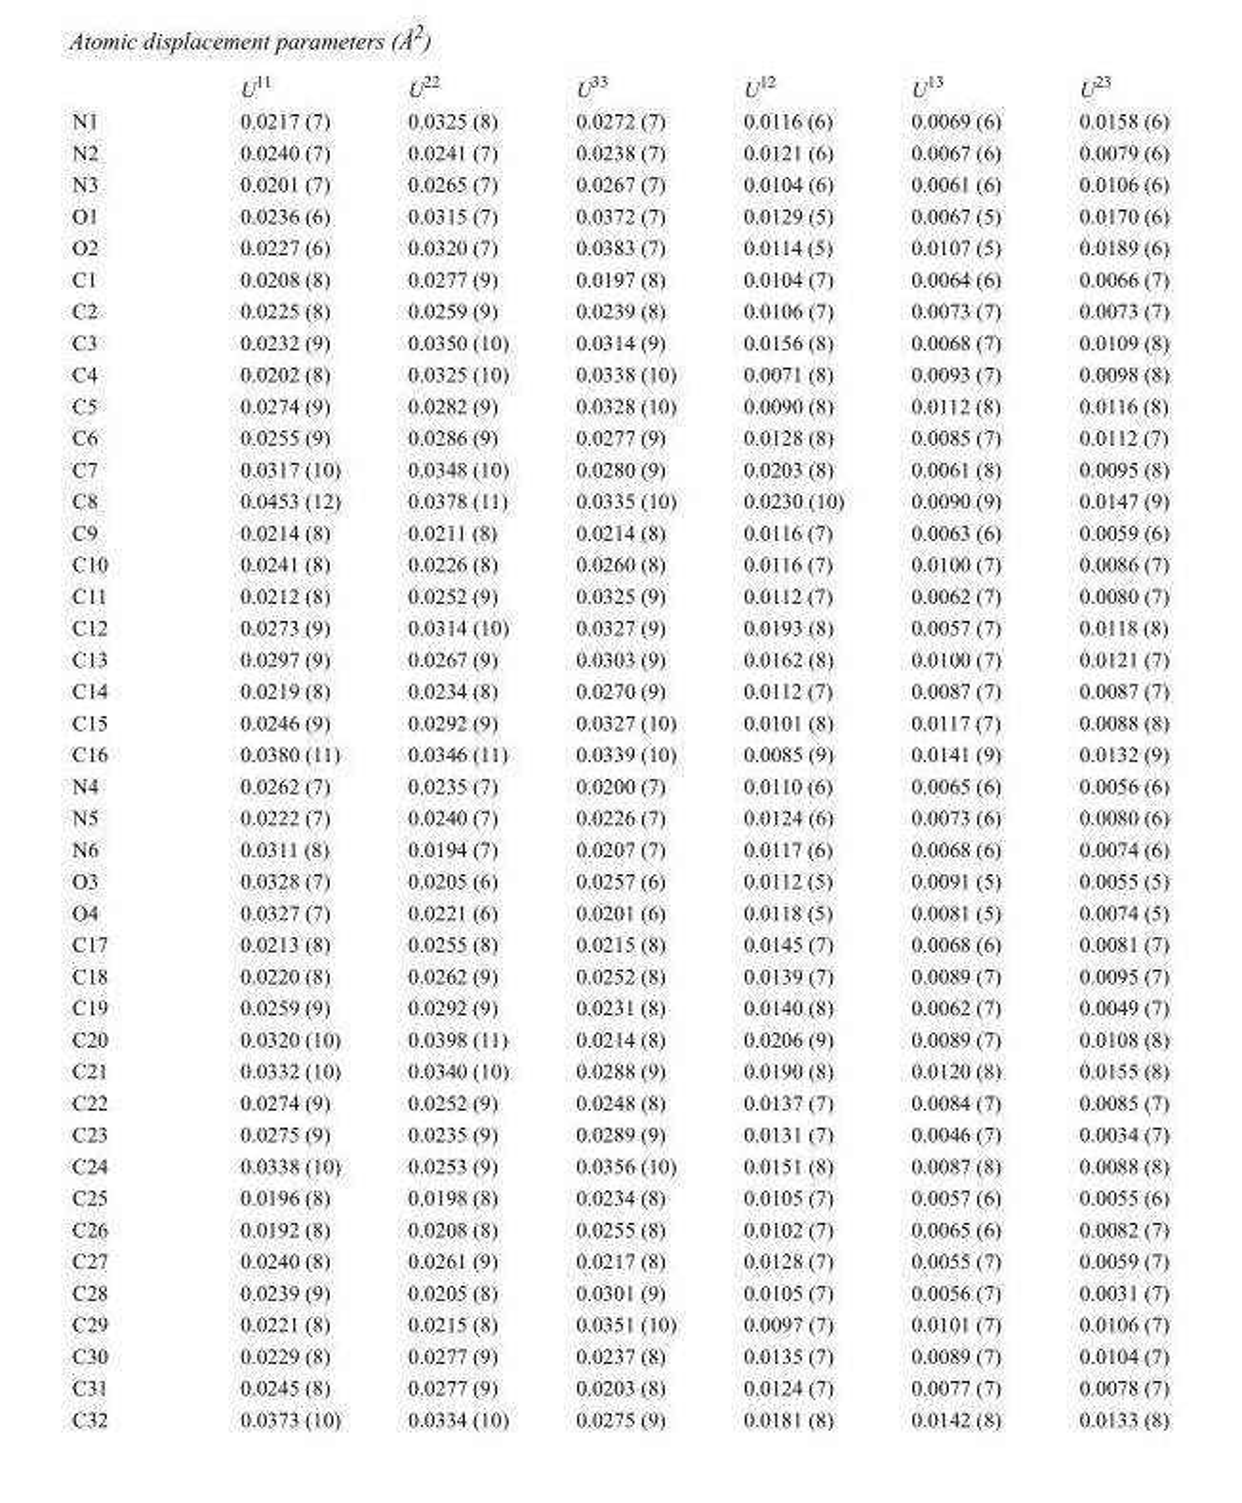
<table><thead><tr><td></td><td>U<sup>11</sup></td><td>U<sup>22</sup></td><td>U<sup>33</sup></td><td>U<sup>12</sup></td><td>U<sup>13</sup></td><td>U<sup>23</sup></td></tr></thead><tbody><tr><td>N1</td><td>0.0217 (7)</td><td>0.0325 (8)</td><td>0.0272 (7)</td><td>0.0116 (6)</td><td>0.0069 (6)</td><td>0.0158 (6)</td></tr><tr><td>N2</td><td>0.0240 (7)</td><td>0.0241 (7)</td><td>0.0238 (7)</td><td>0.0121 (6)</td><td>0.0067 (6)</td><td>0.0079 (6)</td></tr><tr><td>N3</td><td>0.0201 (7)</td><td>0.0265 (7)</td><td>0.0267 (7)</td><td>0.0104 (6)</td><td>0.0061 (6)</td><td>0.0106 (6)</td></tr><tr><td>O1</td><td>0.0236 (6)</td><td>0.0315 (7)</td><td>0.0372 (7)</td><td>0.0129 (5)</td><td>0.0067 (5)</td><td>0.0170 (6)</td></tr><tr><td>O2</td><td>0.0227 (6)</td><td>0.0320 (7)</td><td>0.0383 (7)</td><td>0.0114 (5)</td><td>0.0107 (5)</td><td>0.0189 (6)</td></tr><tr><td>C1</td><td>0.0208 (8)</td><td>0.0277 (9)</td><td>0.0197 (8)</td><td>0.0104 (7)</td><td>0.0064 (6)</td><td>0.0066 (7)</td></tr><tr><td>C2</td><td>0.0225 (8)</td><td>0.0259 (9)</td><td>0.0239 (8)</td><td>0.0106 (7)</td><td>0.0073 (7)</td><td>0.0073 (7)</td></tr><tr><td>C3</td><td>0.0232 (9)</td><td>0.0350 (10)</td><td>0.0314 (9)</td><td>0.0156 (8)</td><td>0.0068 (7)</td><td>0.0109 (8)</td></tr><tr><td>C4</td><td>0.0202 (8)</td><td>0.0325 (10)</td><td>0.0338 (10)</td><td>0.0071 (8)</td><td>0.0093 (7)</td><td>0.0098 (8)</td></tr><tr><td>C5</td><td>0.0274 (9)</td><td>0.0282 (9)</td><td>0.0328 (10)</td><td>0.0090 (8)</td><td>0.0112 (8)</td><td>0.0116 (8)</td></tr><tr><td>C6</td><td>0.0255 (9)</td><td>0.0286 (9)</td><td>0.0277 (9)</td><td>0.0128 (8)</td><td>0.0085 (7)</td><td>0.0112 (7)</td></tr><tr><td>C7</td><td>0.0317 (10)</td><td>0.0348 (10)</td><td>0.0280 (9)</td><td>0.0203 (8)</td><td>0.0061 (8)</td><td>0.0095 (8)</td></tr><tr><td>C8</td><td>0.0453 (12)</td><td>0.0378 (11)</td><td>0.0335 (10)</td><td>0.0230 (10)</td><td>0.0090 (9)</td><td>0.0147 (9)</td></tr><tr><td>C9</td><td>0.0214 (8)</td><td>0.0211 (8)</td><td>0.0214 (8)</td><td>0.0116 (7)</td><td>0.0063 (6)</td><td>0.0059 (6)</td></tr><tr><td>C10</td><td>0.0241 (8)</td><td>0.0226 (8)</td><td>0.0260 (8)</td><td>0.0116 (7)</td><td>0.0100 (7)</td><td>0.0086 (7)</td></tr><tr><td>C11</td><td>0.0212 (8)</td><td>0.0252 (9)</td><td>0.0325 (9)</td><td>0.0112 (7)</td><td>0.0062 (7)</td><td>0.0080 (7)</td></tr><tr><td>C12</td><td>0.0273 (9)</td><td>0.0314 (10)</td><td>0.0327 (9)</td><td>0.0193 (8)</td><td>0.0057 (7)</td><td>0.0118 (8)</td></tr><tr><td>C13</td><td>0.0297 (9)</td><td>0.0267 (9)</td><td>0.0303 (9)</td><td>0.0162 (8)</td><td>0.0100 (7)</td><td>0.0121 (7)</td></tr><tr><td>C14</td><td>0.0219 (8)</td><td>0.0234 (8)</td><td>0.0270 (9)</td><td>0.0112 (7)</td><td>0.0087 (7)</td><td>0.0087 (7)</td></tr><tr><td>C15</td><td>0.0246 (9)</td><td>0.0292 (9)</td><td>0.0327 (10)</td><td>0.0101 (8)</td><td>0.0117 (7)</td><td>0.0088 (8)</td></tr><tr><td>C16</td><td>0.0380 (11)</td><td>0.0346 (11)</td><td>0.0339 (10)</td><td>0.0085 (9)</td><td>0.0141 (9)</td><td>0.0132 (9)</td></tr><tr><td>N4</td><td>0.0262 (7)</td><td>0.0235 (7)</td><td>0.0200 (7)</td><td>0.0110 (6)</td><td>0.0065 (6)</td><td>0.0056 (6)</td></tr><tr><td>N5</td><td>0.0222 (7)</td><td>0.0240 (7)</td><td>0.0226 (7)</td><td>0.0124 (6)</td><td>0.0073 (6)</td><td>0.0080 (6)</td></tr><tr><td>N6</td><td>0.0311 (8)</td><td>0.0194 (7)</td><td>0.0207 (7)</td><td>0.0117 (6)</td><td>0.0068 (6)</td><td>0.0074 (6)</td></tr><tr><td>O3</td><td>0.0328 (7)</td><td>0.0205 (6)</td><td>0.0257 (6)</td><td>0.0112 (5)</td><td>0.0091 (5)</td><td>0.0055 (5)</td></tr><tr><td>O4</td><td>0.0327 (7)</td><td>0.0221 (6)</td><td>0.0201 (6)</td><td>0.0118 (5)</td><td>0.0081 (5)</td><td>0.0074 (5)</td></tr><tr><td>C17</td><td>0.0213 (8)</td><td>0.0255 (8)</td><td>0.0215 (8)</td><td>0.0145 (7)</td><td>0.0068 (6)</td><td>0.0081 (7)</td></tr><tr><td>C18</td><td>0.0220 (8)</td><td>0.0262 (9)</td><td>0.0252 (8)</td><td>0.0139 (7)</td><td>0.0089 (7)</td><td>0.0095 (7)</td></tr><tr><td>C19</td><td>0.0259 (9)</td><td>0.0292 (9)</td><td>0.0231 (8)</td><td>0.0140 (8)</td><td>0.0062 (7)</td><td>0.0049 (7)</td></tr><tr><td>C20</td><td>0.0320 (10)</td><td>0.0398 (11)</td><td>0.0214 (8)</td><td>0.0206 (9)</td><td>0.0089 (7)</td><td>0.0108 (8)</td></tr><tr><td>C21</td><td>0.0332 (10)</td><td>0.0340 (10)</td><td>0.0288 (9)</td><td>0.0190 (8)</td><td>0.0120 (8)</td><td>0.0155 (8)</td></tr><tr><td>C22</td><td>0.0274 (9)</td><td>0.0252 (9)</td><td>0.0248 (8)</td><td>0.0137 (7)</td><td>0.0084 (7)</td><td>0.0085 (7)</td></tr><tr><td>C23</td><td>0.0275 (9)</td><td>0.0235 (9)</td><td>0.0289 (9)</td><td>0.0131 (7)</td><td>0.0046 (7)</td><td>0.0034 (7)</td></tr><tr><td>C24</td><td>0.0338 (10)</td><td>0.0253 (9)</td><td>0.0356 (10)</td><td>0.0151 (8)</td><td>0.0087 (8)</td><td>0.0088 (8)</td></tr><tr><td>C25</td><td>0.0196 (8)</td><td>0.0198 (8)</td><td>0.0234 (8)</td><td>0.0105 (7)</td><td>0.0057 (6)</td><td>0.0055 (6)</td></tr><tr><td>C26</td><td>0.0192 (8)</td><td>0.0208 (8)</td><td>0.0255 (8)</td><td>0.0102 (7)</td><td>0.0065 (6)</td><td>0.0082 (7)</td></tr><tr><td>C27</td><td>0.0240 (8)</td><td>0.0261 (9)</td><td>0.0217 (8)</td><td>0.0128 (7)</td><td>0.0055 (7)</td><td>0.0059 (7)</td></tr><tr><td>C28</td><td>0.0239 (9)</td><td>0.0205 (8)</td><td>0.0301 (9)</td><td>0.0105 (7)</td><td>0.0056 (7)</td><td>0.0031 (7)</td></tr><tr><td>C29</td><td>0.0221 (8)</td><td>0.0215 (8)</td><td>0.0351 (10)</td><td>0.0097 (7)</td><td>0.0101 (7)</td><td>0.0106 (7)</td></tr><tr><td>C30</td><td>0.0229 (8)</td><td>0.0277 (9)</td><td>0.0237 (8)</td><td>0.0135 (7)</td><td>0.0089 (7)</td><td>0.0104 (7)</td></tr><tr><td>C31</td><td>0.0245 (8)</td><td>0.0277 (9)</td><td>0.0203 (8)</td><td>0.0124 (7)</td><td>0.0077 (7)</td><td>0.0078 (7)</td></tr><tr><td>C32</td><td>0.0373 (10)</td><td>0.0334 (10)</td><td>0.0275 (9)</td><td>0.0181 (8)</td><td>0.0142 (8)</td><td>0.0133 (8)</td></tr></tbody></table>